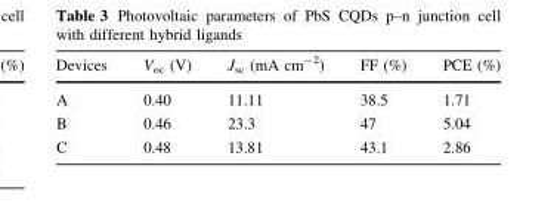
<table><thead><tr><td>Devices</td><td>V<sub>oc</sub> (V)</td><td>J<sub>sc</sub> (mA cm<sup>-2</sup>)</td><td>FF (%)</td><td>PCE (%)</td></tr></thead><tbody><tr><td>A</td><td>0.40</td><td>11.11</td><td>38.5</td><td>1.71</td></tr><tr><td>B</td><td>0.46</td><td>23.3</td><td>47</td><td>5.04</td></tr><tr><td>C</td><td>0.48</td><td>13.81</td><td>43.1</td><td>2.86</td></tr></tbody></table>